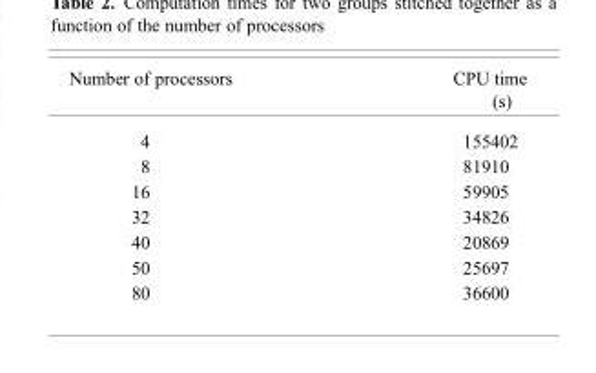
<table><thead><tr><td>Number of processors</td><td>CPU time (s)</td></tr></thead><tbody><tr><td>4</td><td>155402</td></tr><tr><td>8</td><td>81910</td></tr><tr><td>16</td><td>59905</td></tr><tr><td>32</td><td>34826</td></tr><tr><td>40</td><td>20869</td></tr><tr><td>50</td><td>25697</td></tr><tr><td>80</td><td>36600</td></tr></tbody></table>